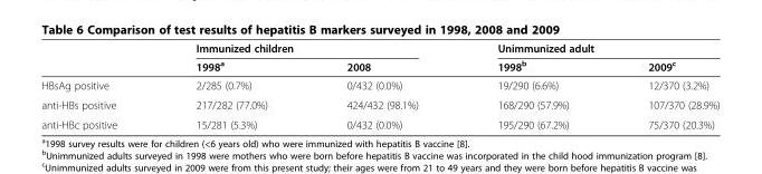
<table><thead><tr><td rowspan="2"></td><td colspan="2">Immunized children</td><td colspan="2">Unimmunized adult</td></tr><tr><td>1998<sup>a</sup></td><td>2008</td><td>1998<sup>b</sup></td><td>2009<sup>c</sup></td></tr></thead><tbody><tr><td>HBsAg positive</td><td>2/285 (0.7%)</td><td>0/432 (0.0%)</td><td>19/290 (6.6%)</td><td>12/370 (3.2%)</td></tr><tr><td>anti-HBs positive</td><td>217/282 (77.0%)</td><td>424/432 (98.1%)</td><td>168/290 (57.9%)</td><td>107/370 (28.9%)</td></tr><tr><td>anti-HBc positive</td><td>15/281 (5.3%)</td><td>0/432 (0.0%)</td><td>195/290 (67.2%)</td><td>75/370 (20.3%)</td></tr></tbody></table>